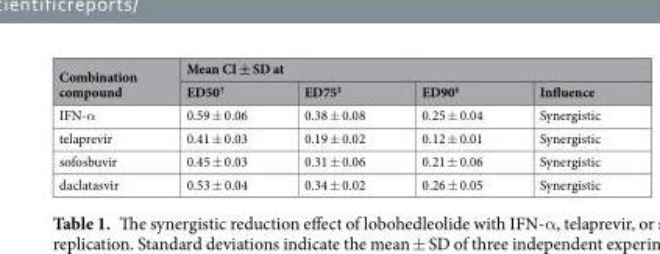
<table><thead><tr><td rowspan="2">Combination compound</td><td colspan="4">Mean CI ± SD at</td></tr><tr><td>ED50<sup>†</sup></td><td>ED75<sup>‡</sup></td><td>ED90<sup>§</sup></td><td>Influence</td></tr></thead><tbody><tr><td>IFN-α</td><td>0.59 ± 0.06</td><td>0.38 ± 0.08</td><td>0.25 ± 0.04</td><td>Synergistic</td></tr><tr><td>telaprevir</td><td>0.41 ± 0.03</td><td>0.19 ± 0.02</td><td>0.12 ± 0.01</td><td>Synergistic</td></tr><tr><td>sofosbuvir</td><td>0.45 ± 0.03</td><td>0.31 ± 0.06</td><td>0.21 ± 0.06</td><td>Synergistic</td></tr><tr><td>daclatasvir</td><td>0.53 ± 0.04</td><td>0.34 ± 0.02</td><td>0.26 ± 0.05</td><td>Synergistic</td></tr></tbody></table>